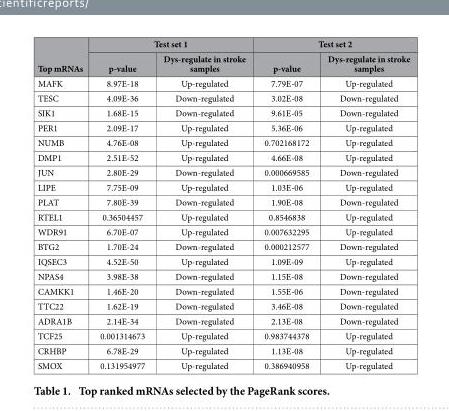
<table><thead><tr><td rowspan="2">Top mRNAs</td><td colspan="2">Test set 1</td><td colspan="2">Test set 2</td></tr><tr><td>p-value</td><td>Dys-regulate in stroke samples</td><td>p-value</td><td>Dys-regulate in stroke samples</td></tr></thead><tbody><tr><td>MAFK</td><td>8.97E-18</td><td>Up-regulated</td><td>7.79E-07</td><td>Up-regulated</td></tr><tr><td>TESC</td><td>4.09E-36</td><td>Down-regulated</td><td>3.02E-08</td><td>Down-regulated</td></tr><tr><td>SIK1</td><td>1.68E-15</td><td>Down-regulated</td><td>9.61E-05</td><td>Down-regulated</td></tr><tr><td>PER1</td><td>2.09E-17</td><td>Up-regulated</td><td>5.36E-06</td><td>Up-regulated</td></tr><tr><td>NUMB</td><td>4.76E-08</td><td>Up-regulated</td><td>0.702168172</td><td>Up-regulated</td></tr><tr><td>DMP1</td><td>2.51E-52</td><td>Up-regulated</td><td>4.66E-08</td><td>Up-regulated</td></tr><tr><td>JUN</td><td>2.80E-29</td><td>Down-regulated</td><td>0.000669585</td><td>Down-regulated</td></tr><tr><td>LIPE</td><td>7.75E-09</td><td>Up-regulated</td><td>1.03E-06</td><td>Up-regulated</td></tr><tr><td>PLAT</td><td>7.80E-39</td><td>Down-regulated</td><td>1.90E-08</td><td>Down-regulated</td></tr><tr><td>RTEL1</td><td>0.36504457</td><td>Up-regulated</td><td>0.8546838</td><td>Up-regulated</td></tr><tr><td>WDR91</td><td>6.70E-07</td><td>Up-regulated</td><td>0.007632295</td><td>Up-regulated</td></tr><tr><td>BTG2</td><td>1.70E-24</td><td>Down-regulated</td><td>0.000212577</td><td>Down-regulated</td></tr><tr><td>IQSEC3</td><td>4.52E-50</td><td>Up-regulated</td><td>1.09E-09</td><td>Up-regulated</td></tr><tr><td>NPAS4</td><td>3.98E-38</td><td>Down-regulated</td><td>1.15E-08</td><td>Down-regulated</td></tr><tr><td>CAMKK1</td><td>1.46E-20</td><td>Down-regulated</td><td>1.55E-06</td><td>Down-regulated</td></tr><tr><td>TTC22</td><td>1.62E-19</td><td>Down-regulated</td><td>3.46E-08</td><td>Down-regulated</td></tr><tr><td>ADRA1B</td><td>2.14E-34</td><td>Down-regulated</td><td>2.13E-08</td><td>Down-regulated</td></tr><tr><td>TCF25</td><td>0.001314673</td><td>Up-regulated</td><td>0.983744378</td><td>Up-regulated</td></tr><tr><td>CRHBP</td><td>6.78E-29</td><td>Up-regulated</td><td>1.13E-08</td><td>Up-regulated</td></tr><tr><td>SMOX</td><td>0.131954977</td><td>Up-regulated</td><td>0.386940958</td><td>Up-regulated</td></tr></tbody></table>